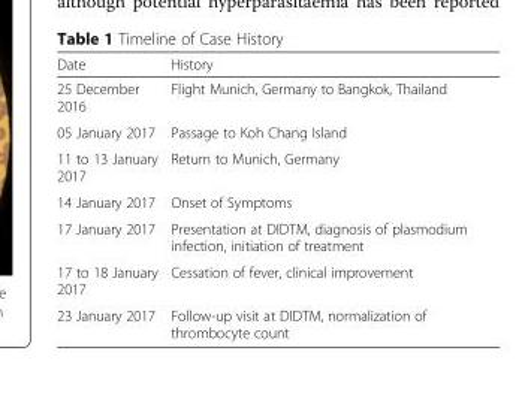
<table><thead><tr><td>Date</td><td>History</td></tr></thead><tbody><tr><td>25 December 2016</td><td>Flight Munich, Germany to Bangkok, Thailand</td></tr><tr><td>05 January 2017</td><td>Passage to Koh Chang Island</td></tr><tr><td>11 to 13 January 2017</td><td>Return to Munich, Germany</td></tr><tr><td>14 January 2017</td><td>Onset of Symptoms</td></tr><tr><td>17 January 2017</td><td>Presentation at DIDTM, diagnosis of plasmodium infection, initiation of treatment</td></tr><tr><td>17 to 18 January 2017</td><td>Cessation of fever, clinical improvement</td></tr><tr><td>23 January 2017</td><td>Follow-up visit at DIDTM, normalization of thrombocyte count</td></tr></tbody></table>